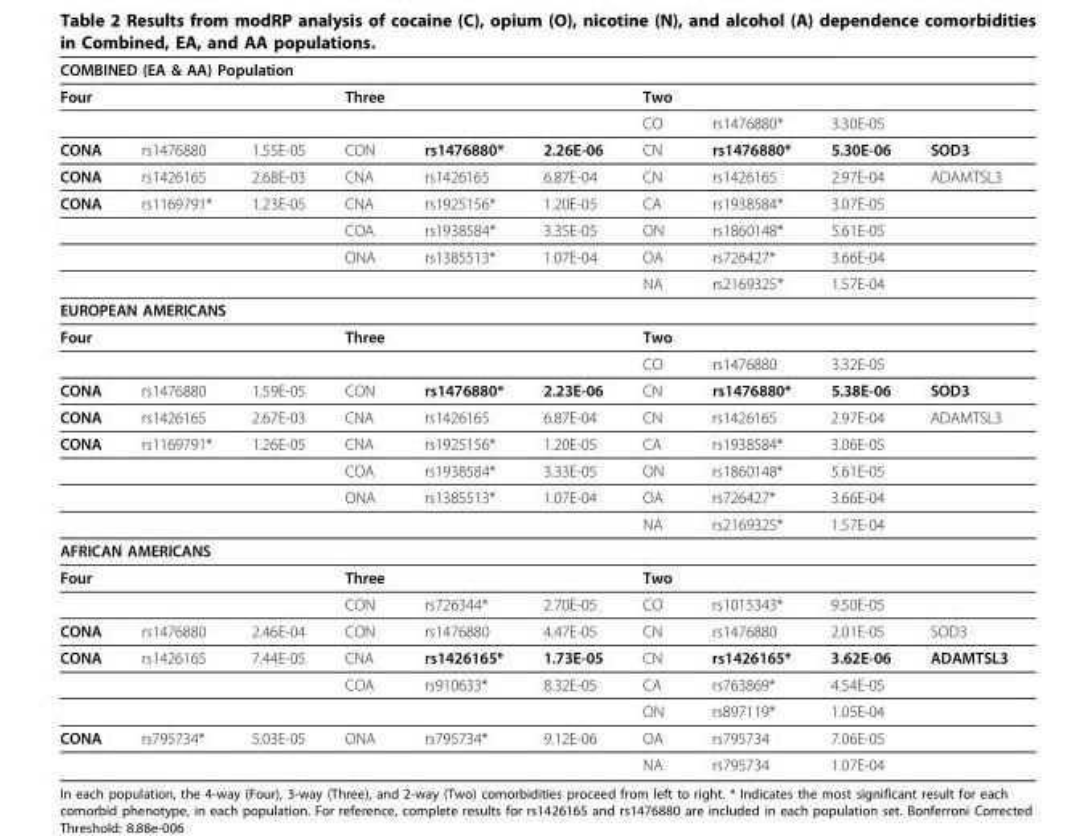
<table><thead><tr><td colspan="10">COMBINED (EA &amp; AA) Population</td></tr><tr><td>Four</td><td></td><td></td><td>Three</td><td></td><td></td><td>Two</td><td></td><td></td><td></td></tr></thead><tbody><tr><td></td><td></td><td></td><td></td><td></td><td></td><td>CO</td><td>rs1476880*</td><td>3.30E-05</td><td></td></tr><tr><td>CONA</td><td>rs1476880</td><td>1.55E-05</td><td>CON</td><td>rs1476880*</td><td>2.26E-06</td><td>CN</td><td>rs1476880*</td><td>5.30E-06</td><td>SOD3</td></tr><tr><td>CONA</td><td>rs1426165</td><td>2.68E-03</td><td>CNA</td><td>rs1426165</td><td>6.87E-04</td><td>CN</td><td>rs1426165</td><td>2.97E-04</td><td>ADAMTSL3</td></tr><tr><td rowspan="4">CONA</td><td>rs1169791*</td><td>1.23E-05</td><td>CNA</td><td>rs1925156*</td><td>1.20E-05</td><td>CA</td><td>rs1938584*</td><td>3.07E-05</td><td></td></tr><tr><td></td><td></td><td>COA</td><td>rs1938584*</td><td>3.35E-05</td><td>ON</td><td>rs1860148*</td><td>5.61E-05</td><td></td></tr><tr><td></td><td></td><td>ONA</td><td>rs1385513*</td><td>1.07E-04</td><td>OA</td><td>rs726427*</td><td>3.66E-04</td><td></td></tr><tr><td></td><td></td><td></td><td></td><td></td><td>NA</td><td>rs2169325*</td><td>1.57E-04</td><td></td></tr><tr><td colspan="10">EUROPEAN AMERICANS</td></tr><tr><td rowspan="2">Four</td><td></td><td></td><td>Three</td><td></td><td></td><td>Two</td><td></td><td></td><td></td></tr><tr><td></td><td></td><td></td><td></td><td></td><td>CO</td><td>rs1476880</td><td>3.32E-05</td><td></td></tr><tr><td>CONA</td><td>rs1476880</td><td>1.59E-05</td><td>CON</td><td>rs1476880*</td><td>2.23E-06</td><td>CN</td><td>rs1476880*</td><td>5.38E-06</td><td>SOD3</td></tr><tr><td>CONA</td><td>rs1426165</td><td>2.67E-03</td><td>CNA</td><td>rs1426165</td><td>6.87E-04</td><td>CN</td><td>rs1426165</td><td>2.97E-04</td><td>ADAMTSL3</td></tr><tr><td rowspan="4">CONA</td><td>rs1169791*</td><td>1.26E-05</td><td>CNA</td><td>rs1925156*</td><td>1.20E-05</td><td>CA</td><td>rs1938584*</td><td>3.06E-05</td><td></td></tr><tr><td></td><td></td><td>COA</td><td>rs1938584*</td><td>3.33E-05</td><td>ON</td><td>rs1860148*</td><td>5.61E-05</td><td></td></tr><tr><td></td><td></td><td>ONA</td><td>rs1385513*</td><td>1.07E-04</td><td>OA</td><td>rs726427*</td><td>3.66E-04</td><td></td></tr><tr><td></td><td></td><td></td><td></td><td></td><td>NA</td><td>rs2169325*</td><td>1.57E-04</td><td></td></tr><tr><td colspan="10">AFRICAN AMERICANS</td></tr><tr><td rowspan="2">Four</td><td></td><td></td><td>Three</td><td></td><td></td><td>Two</td><td></td><td></td><td></td></tr><tr><td></td><td></td><td>CON</td><td>rs726344*</td><td>2.70E-05</td><td>CO</td><td>rs1015343*</td><td>9.50E-05</td><td></td></tr><tr><td>CONA</td><td>rs1476880</td><td>2.46E-04</td><td>CON</td><td>rs1476880</td><td>4.47E-05</td><td>CN</td><td>rs1476880</td><td>2.01E-05</td><td>SOD3</td></tr><tr><td rowspan="3">CONA</td><td>rs1426165</td><td>7.44E-05</td><td>CNA</td><td>rs1426165*</td><td>1.73E-05</td><td>CN</td><td>rs1426165*</td><td>3.62E-06</td><td>ADAMTSL3</td></tr><tr><td></td><td></td><td>COA</td><td>rs910633*</td><td>8.32E-05</td><td>CA</td><td>rs763869*</td><td>4.54E-05</td><td></td></tr><tr><td></td><td></td><td></td><td></td><td></td><td>ON</td><td>rs897119*</td><td>1.05E-04</td><td></td></tr><tr><td rowspan="2">CONA</td><td>rs795734*</td><td>5.03E-05</td><td>ONA</td><td>rs795734*</td><td>9.12E-06</td><td>OA</td><td>rs795734</td><td>7.06E-05</td><td></td></tr><tr><td></td><td></td><td></td><td></td><td></td><td>NA</td><td>rs795734</td><td>1.07E-04</td><td></td></tr></tbody></table>